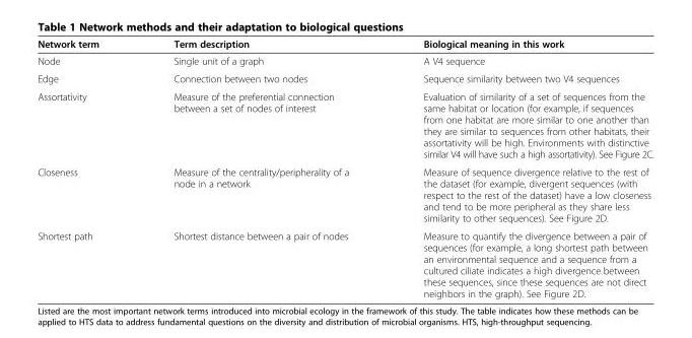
<table><thead><tr><td>Network term</td><td>Term description</td><td>Biological meaning in this work</td></tr></thead><tbody><tr><td>Node</td><td>Single unit of a graph</td><td>A V4 sequence</td></tr><tr><td>Edge</td><td>Connection between two nodes</td><td>Sequence similarity between two V4 sequences</td></tr><tr><td>Assortativity</td><td>Measure of the preferential connection between a set of nodes of interest</td><td>Evaluation of similarity of a set of sequences from the same habitat or location (for example, if sequences from one habitat are more similar to one another than they are similar to sequences from other habitats, their assortativity will be high. Environments with distinctive similar V4 will have such a high assortativity). See Figure 2C.</td></tr><tr><td>Closeness</td><td>Measure of the centrality/peripherality of a node in a network</td><td>Measure of sequence divergence relative to the rest of the dataset (for example, divergent sequences (with respect to the rest of the dataset) have a low closeness and tend to be more peripheral as they share less similarity to other sequences). See Figure 2D.</td></tr><tr><td>Shortest path</td><td>Shortest distance between a pair of nodes</td><td>Measure to quantify the divergence between a pair of sequences (for example, a long shortest path between an environmental sequence and a sequence from a cultured ciliate indicates a high divergence between these sequences, since these sequences are not direct neighbors in the graph). See Figure 2D.</td></tr></tbody></table>